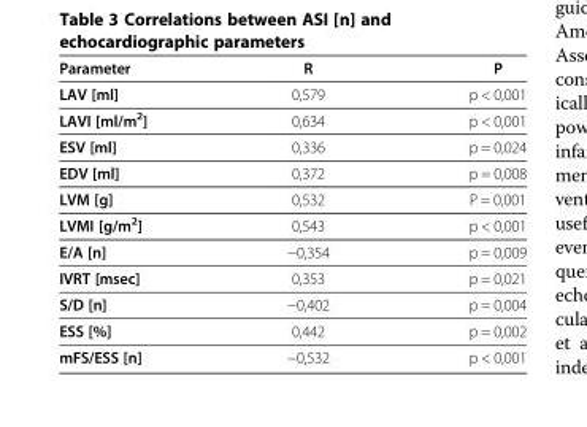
<table><thead><tr><td>Parameter</td><td>R</td><td>P</td></tr></thead><tbody><tr><td>LAV [ml]</td><td>0,579</td><td>p &lt; 0,001</td></tr><tr><td>LAVI [ml/m<sup>2</sup>]</td><td>0,634</td><td>p &lt; 0,001</td></tr><tr><td>ESV [ml]</td><td>0,336</td><td>p = 0,024</td></tr><tr><td>EDV [ml]</td><td>0,372</td><td>p = 0,008</td></tr><tr><td>LVM [g]</td><td>0,532</td><td>P = 0,001</td></tr><tr><td>LVMI [g/m<sup>2</sup>]</td><td>0,543</td><td>p &lt; 0,001</td></tr><tr><td>E/A [n]</td><td>−0,354</td><td>p = 0,009</td></tr><tr><td>IVRT [msec]</td><td>0,353</td><td>p = 0,021</td></tr><tr><td>S/D [n]</td><td>−0,402</td><td>p = 0,004</td></tr><tr><td>ESS [%]</td><td>0,442</td><td>p = 0,002</td></tr><tr><td>mFS/ESS [n]</td><td>−0,532</td><td>p &lt; 0,001</td></tr></tbody></table>